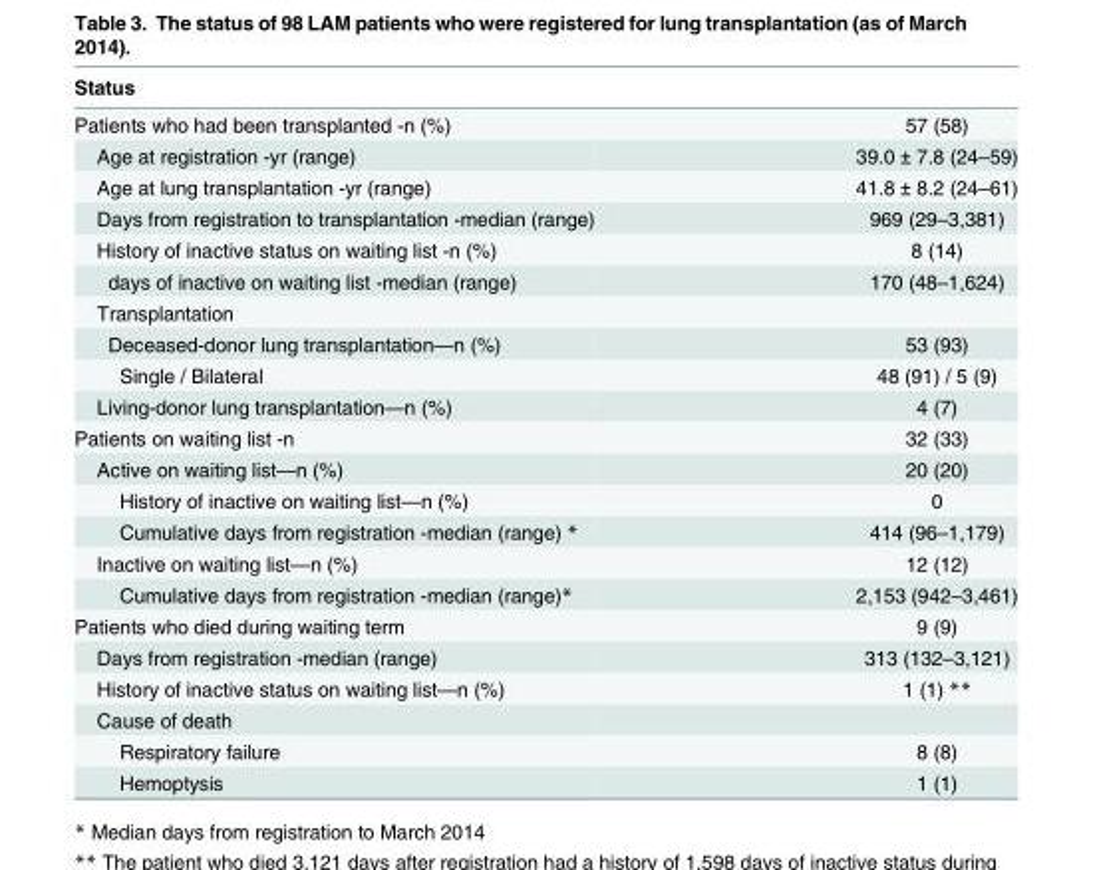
<table><thead><tr><td>Status</td><td></td></tr></thead><tbody><tr><td>Patients who had been transplanted -n (%)</td><td>57 (58)</td></tr><tr><td>Age at registration -yr (range)</td><td>39.0 ± 7.8 (24–59)</td></tr><tr><td>Age at lung transplantation -yr (range)</td><td>41.8 ± 8.2 (24–61)</td></tr><tr><td>Days from registration to transplantation -median (range)</td><td>969 (29–3,381)</td></tr><tr><td>History of inactive status on waiting list -n (%)</td><td>8 (14)</td></tr><tr><td>days of inactive on waiting list -median (range)</td><td>170 (48–1,624)</td></tr><tr><td colspan="2">Transplantation</td></tr><tr><td>Deceased-donor lung transplantation—n (%)</td><td>53 (93)</td></tr><tr><td>Single / Bilateral</td><td>48 (91) / 5 (9)</td></tr><tr><td>Living-donor lung transplantation—n (%)</td><td>4 (7)</td></tr><tr><td>Patients on waiting list -n</td><td>32 (33)</td></tr><tr><td>Active on waiting list—n (%)</td><td>20 (20)</td></tr><tr><td>History of inactive on waiting list—n (%)</td><td>0</td></tr><tr><td>Cumulative days from registration -median (range) *</td><td>414 (96–1,179)</td></tr><tr><td>Inactive on waiting list—n (%)</td><td>12 (12)</td></tr><tr><td>Cumulative days from registration -median (range)*</td><td>2,153 (942–3,461)</td></tr><tr><td>Patients who died during waiting term</td><td>9 (9)</td></tr><tr><td>Days from registration -median (range)</td><td>313 (132–3,121)</td></tr><tr><td>History of inactive status on waiting list—n (%)</td><td>1 (1) **</td></tr><tr><td colspan="2">Cause of death</td></tr><tr><td>Respiratory failure</td><td>8 (8)</td></tr><tr><td>Hemoptysis</td><td>1 (1)</td></tr></tbody></table>